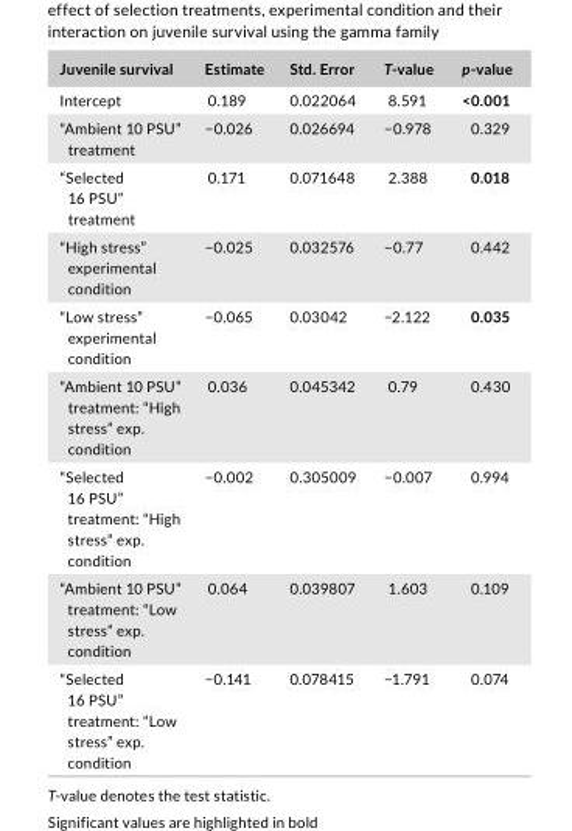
<table><thead><tr><td>Juvenile survival</td><td>Estimate</td><td>Std. Error</td><td>T- value</td><td>p- value</td></tr></thead><tbody><tr><td>Intercept</td><td>0.189</td><td>0.022064</td><td>8.591</td><td>&lt;0.001</td></tr><tr><td>“Ambient 10 PSU” treatment</td><td>−0.026</td><td>0.026694</td><td>−0.978</td><td>0.329</td></tr><tr><td>“Selected 16 PSU” treatment</td><td>0.171</td><td>0.071648</td><td>2.388</td><td>0.018</td></tr><tr><td>“High stress” experimental condition</td><td>−0.025</td><td>0.032576</td><td>−0.77</td><td>0.442</td></tr><tr><td>“Low stress” experimental condition</td><td>−0.065</td><td>0.03042</td><td>−2.122</td><td>0.035</td></tr><tr><td>“Ambient 10 PSU” treatment: “High stress” exp. condition</td><td>0.036</td><td>0.045342</td><td>0.79</td><td>0.430</td></tr><tr><td>“Selected 16 PSU” treatment: “High stress” exp. condition</td><td>−0.002</td><td>0.305009</td><td>−0.007</td><td>0.994</td></tr><tr><td>“Ambient 10 PSU” treatment: “Low stress” exp. condition</td><td>0.064</td><td>0.039807</td><td>1.603</td><td>0.109</td></tr><tr><td>“Selected 16 PSU” treatment: “Low stress” exp. condition</td><td>−0.141</td><td>0.078415</td><td>−1.791</td><td>0.074</td></tr></tbody></table>